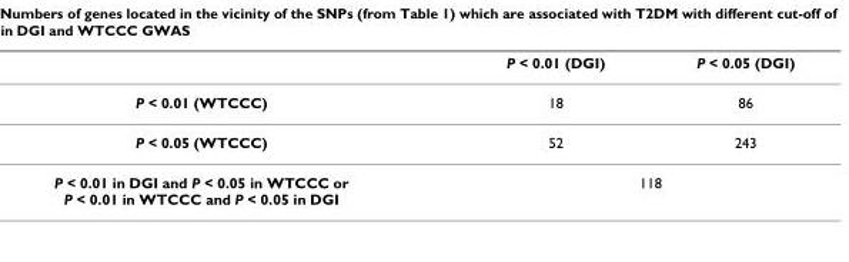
<table><thead><tr><td></td><td>P &lt; 0.01 (DGI)</td><td>P &lt; 0.05 (DGI)</td></tr></thead><tbody><tr><td>P &lt; 0.01 (WTCCC)</td><td>18</td><td>86</td></tr><tr><td>P &lt; 0.05 (WTCCC)</td><td>52</td><td>243</td></tr><tr><td>P &lt; 0.01 in DGI and P &lt; 0.05 in WTCCC or P &lt; 0.01 in WTCCC and P &lt; 0.05 in DGI</td><td colspan="2">118</td></tr></tbody></table>